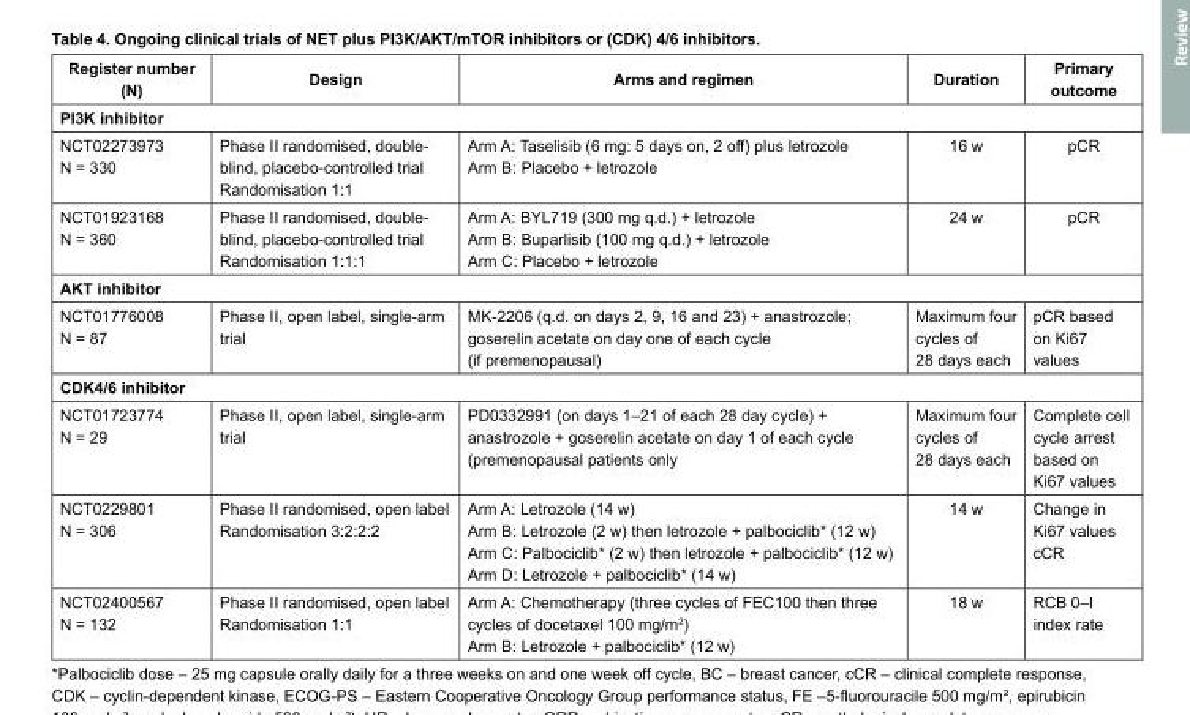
<table><thead><tr><td>Register number (N)</td><td>Design</td><td>Arms and regimen</td><td>Duration</td><td>Primary outcome</td></tr></thead><tbody><tr><td colspan="5">PI3K inhibitor</td></tr><tr><td>NCT02273973 N = 330</td><td>Phase II randomised, double- blind, placebo-controlled trial Randomisation 1:1</td><td>Arm A: Taselisib (6 mg: 5 days on, 2 off) plus letrozole Arm B: Placebo + letrozole</td><td>16 w</td><td>pCR</td></tr><tr><td>NCT01923168 N = 360</td><td>Phase II randomised, double- blind, placebo-controlled trial Randomisation 1:1:1</td><td>Arm A: BYL719 (300 mg q.d.) + letrozole Arm B: Buparlisib (100 mg q.d.) + letrozole Arm C: Placebo + letrozole</td><td>24 w</td><td>pCR</td></tr><tr><td colspan="5">AKT inhibitor</td></tr><tr><td>NCT01776008 N = 87</td><td>Phase II, open label, single-arm trial</td><td>MK-2206 (q.d. on days 2, 9, 16 and 23) + anastrozole; goserelin acetate on day one of each cycle (if premenopausal)</td><td>Maximum four cycles of 28 days each</td><td>pCR based on Ki67 values</td></tr><tr><td colspan="5">CDK4/6 inhibitor</td></tr><tr><td>NCT01723774 N = 29</td><td>Phase II, open label, single-arm trial</td><td>PD0332991 (on days 1–21 of each 28 day cycle) + anastrozole + goserelin acetate on day 1 of each cycle (premenopausal patients only</td><td>Maximum four cycles of 28 days each</td><td>Complete cell cycle arrest based on Ki67 values</td></tr><tr><td>NCT0229801 N = 306</td><td>Phase II randomised, open label Randomisation 3:2:2:2</td><td>Arm A: Letrozole (14 w) Arm B: Letrozole (2 w) then letrozole + palbociclib* (12 w) Arm C: Palbociclib* (2 w) then letrozole + palbociclib* (12 w) Arm D: Letrozole + palbociclib* (14 w)</td><td>14 w</td><td>Change in Ki67 values cCR</td></tr><tr><td>NCT02400567 N = 132</td><td>Phase II randomised, open label Randomisation 1:1</td><td>Arm A: Chemotherapy (three cycles of FEC100 then three cycles of docetaxel 100 mg/m<sup>2</sup>) Arm B: Letrozole + palbociclib* (12 w)</td><td>18 w</td><td>RCB 0–I index rate</td></tr></tbody></table>